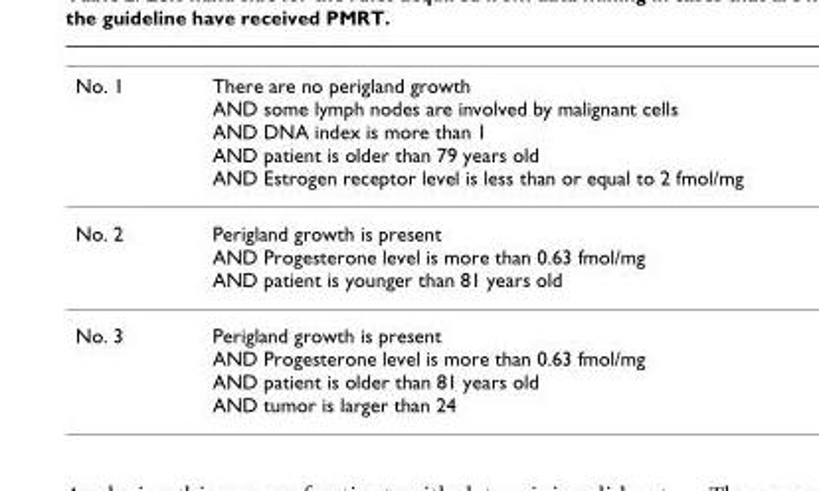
<table><tbody><tr><td>No. 1</td><td>There are no perigland growth AND some lymph nodes are involved by malignant cells AND DNA index is more than 1 AND patient is older than 79 years old AND Estrogen receptor level is less than or equal to 2 fmol/mg</td></tr><tr><td>No. 2</td><td>Perigland growth is present AND Progesterone level is more than 0.63 fmol/mg AND patient is younger than 81 years old</td></tr><tr><td>No. 3</td><td>Perigland growth is present AND Progesterone level is more than 0.63 fmol/mg AND patient is older than 81 years old AND tumor is larger than 24</td></tr></tbody></table>